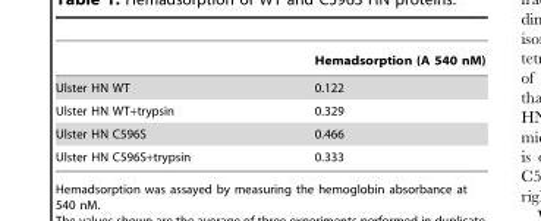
<table><thead><tr><td></td><td>Hemadsorption (A 540 nM)</td></tr></thead><tbody><tr><td>Ulster HN WT</td><td>0.122</td></tr><tr><td>Ulster HN WT+trypsin</td><td>0.329</td></tr><tr><td>Ulster HN C596S</td><td>0.466</td></tr><tr><td>Ulster HN C596S+trypsin</td><td>0.333</td></tr></tbody></table>